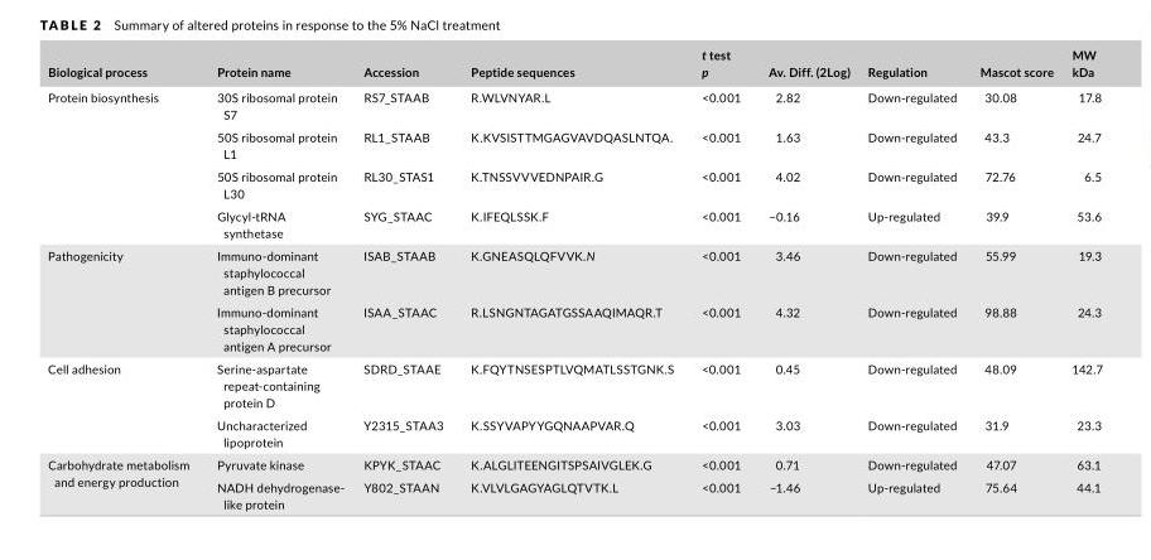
<table><thead><tr><td>Biological process</td><td>Protein name</td><td>Accession</td><td>Peptide sequences</td><td>t test p</td><td>Av. Diff. (2Log)</td><td>Regulation</td><td>Mascot score</td><td>MW kDa</td></tr></thead><tbody><tr><td rowspan="4">Protein biosynthesis</td><td>30S ribosomal protein S7</td><td>RS7_STAAB</td><td>R.WLVNYAR.L</td><td>&lt;0.001</td><td>2.82</td><td>Down‐regulated</td><td>30.08</td><td>17.8</td></tr><tr><td>50S ribosomal protein L1</td><td>RL1_STAAB</td><td>K.KVSISTTMGAGVAVDQASLNTQA.</td><td>&lt;0.001</td><td>1.63</td><td>Down‐regulated</td><td>43.3</td><td>24.7</td></tr><tr><td>50S ribosomal protein L30</td><td>RL30_STAS1</td><td>K.TNSSVVVEDNPAIR.G</td><td>&lt;0.001</td><td>4.02</td><td>Down‐regulated</td><td>72.76</td><td>6.5</td></tr><tr><td>Glycyl‐tRNA synthetase</td><td>SYG_STAAC</td><td>K.IFEQLSSK.F</td><td>&lt;0.001</td><td>−0.16</td><td>Up‐regulated</td><td>39.9</td><td>53.6</td></tr><tr><td rowspan="2">Pathogenicity</td><td>Immuno‐dominant staphylococcal antigen B precursor</td><td>ISAB_STAAB</td><td>K.GNEASQLQFVVK.N</td><td>&lt;0.001</td><td>3.46</td><td>Down‐regulated</td><td>55.99</td><td>19.3</td></tr><tr><td>Immuno‐dominant staphylococcal antigen A precursor</td><td>ISAA_STAAC</td><td>R.LSNGNTAGATGSSAAQIMAQR.T</td><td>&lt;0.001</td><td>4.32</td><td>Down‐regulated</td><td>98.88</td><td>24.3</td></tr><tr><td rowspan="2">Cell adhesion</td><td>Serine‐aspartate repeat‐containing protein D</td><td>SDRD_STAAE</td><td>K.FQYTNSESPTLVQMATLSSTGNK.S</td><td>&lt;0.001</td><td>0.45</td><td>Down‐regulated</td><td>48.09</td><td>142.7</td></tr><tr><td>Uncharacterized lipoprotein</td><td>Y2315_STAA3</td><td>K.SSYVAPYYGQNAAPVAR.Q</td><td>&lt;0.001</td><td>3.03</td><td>Down‐regulated</td><td>31.9</td><td>23.3</td></tr><tr><td rowspan="2">Carbohydrate metabolism and energy production</td><td>Pyruvate kinase</td><td>KPYK_STAAC</td><td>K.ALGLITEENGITSPSAIVGLEK.G</td><td>&lt;0.001</td><td>0.71</td><td>Down‐regulated</td><td>47.07</td><td>63.1</td></tr><tr><td>NADH dehydrogenase‐ like protein</td><td>Y802_STAAN</td><td>K.VLVLGAGYAGLQTVTK.L</td><td>&lt;0.001</td><td>−1.46</td><td>Up‐regulated</td><td>75.64</td><td>44.1</td></tr></tbody></table>